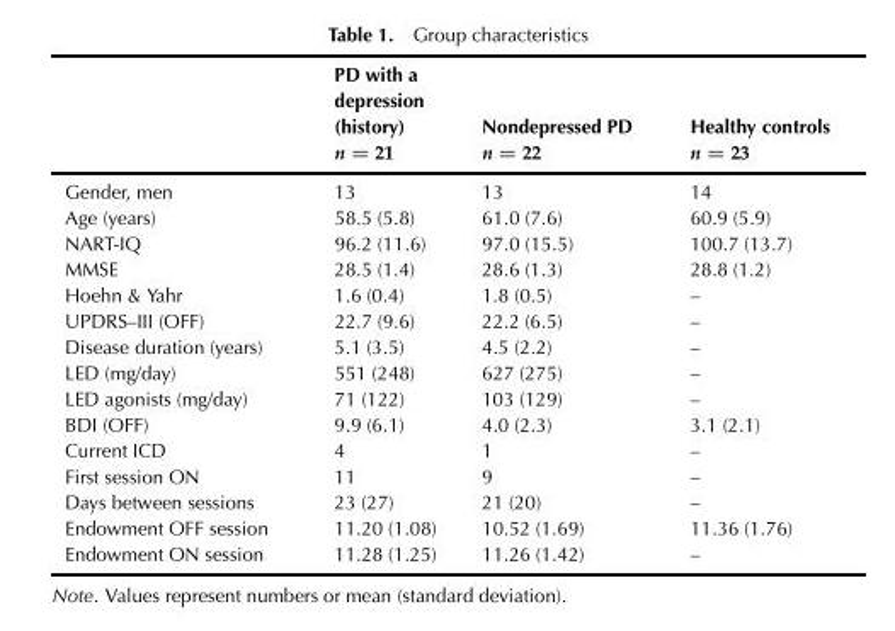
<table><thead><tr><td></td><td>PD with a depression (history) n = 21</td><td>Nondepressed PD n = 22</td><td>Healthy controls n = 23</td></tr></thead><tbody><tr><td>Gender, men</td><td>13</td><td>13</td><td>14</td></tr><tr><td>Age (years)</td><td>58.5 (5.8)</td><td>61.0 (7.6)</td><td>60.9 (5.9)</td></tr><tr><td>NART-IQ</td><td>96.2 (11.6)</td><td>97.0 (15.5)</td><td>100.7 (13.7)</td></tr><tr><td>MMSE</td><td>28.5 (1.4)</td><td>28.6 (1.3)</td><td>28.8 (1.2)</td></tr><tr><td>Hoehn &amp; Yahr</td><td>1.6 (0.4)</td><td>1.8 (0.5)</td><td>–</td></tr><tr><td>UPDRS–III (OFF)</td><td>22.7 (9.6)</td><td>22.2 (6.5)</td><td>–</td></tr><tr><td>Disease duration (years)</td><td>5.1 (3.5)</td><td>4.5 (2.2)</td><td>–</td></tr><tr><td>LED (mg/day)</td><td>551 (248)</td><td>627 (275)</td><td>–</td></tr><tr><td>LED agonists (mg/day)</td><td>71 (122)</td><td>103 (129)</td><td>–</td></tr><tr><td>BDI (OFF)</td><td>9.9 (6.1)</td><td>4.0 (2.3)</td><td>3.1 (2.1)</td></tr><tr><td>Current ICD</td><td>4</td><td>1</td><td>–</td></tr><tr><td>First session ON</td><td>11</td><td>9</td><td>–</td></tr><tr><td>Days between sessions</td><td>23 (27)</td><td>21 (20)</td><td>–</td></tr><tr><td>Endowment OFF session</td><td>11.20 (1.08)</td><td>10.52 (1.69)</td><td>11.36 (1.76)</td></tr><tr><td>Endowment ON session</td><td>11.28 (1.25)</td><td>11.26 (1.42)</td><td>–</td></tr></tbody></table>